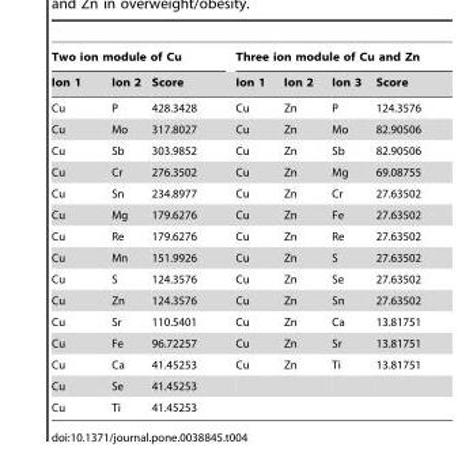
<table><thead><tr><td colspan="3">Two ion module of Cu</td><td colspan="4">Three ion module of Cu and Zn</td></tr><tr><td>Ion 1</td><td>Ion 2</td><td>Score</td><td>Ion 1</td><td>Ion 2</td><td>Ion 3</td><td>Score</td></tr></thead><tbody><tr><td>Cu</td><td>P</td><td>428.3428</td><td>Cu</td><td>Zn</td><td>P</td><td>124.3576</td></tr><tr><td>Cu</td><td>Mo</td><td>317.8027</td><td>Cu</td><td>Zn</td><td>Mo</td><td>82.90506</td></tr><tr><td>Cu</td><td>Sb</td><td>303.9852</td><td>Cu</td><td>Zn</td><td>Sb</td><td>82.90506</td></tr><tr><td>Cu</td><td>Cr</td><td>276.3502</td><td>Cu</td><td>Zn</td><td>Mg</td><td>69.08755</td></tr><tr><td>Cu</td><td>Sn</td><td>234.8977</td><td>Cu</td><td>Zn</td><td>Cr</td><td>27.63502</td></tr><tr><td>Cu</td><td>Mg</td><td>179.6276</td><td>Cu</td><td>Zn</td><td>Fe</td><td>27.63502</td></tr><tr><td>Cu</td><td>Re</td><td>179.6276</td><td>Cu</td><td>Zn</td><td>Re</td><td>27.63502</td></tr><tr><td>Cu</td><td>Mn</td><td>151.9926</td><td>Cu</td><td>Zn</td><td>S</td><td>27.63502</td></tr><tr><td>Cu</td><td>S</td><td>124.3576</td><td>Cu</td><td>Zn</td><td>Se</td><td>27.63502</td></tr><tr><td>Cu</td><td>Zn</td><td>124.3576</td><td>Cu</td><td>Zn</td><td>Sn</td><td>27.63502</td></tr><tr><td>Cu</td><td>Sr</td><td>110.5401</td><td>Cu</td><td>Zn</td><td>Ca</td><td>13.81751</td></tr><tr><td>Cu</td><td>Fe</td><td>96.72257</td><td>Cu</td><td>Zn</td><td>Sr</td><td>13.81751</td></tr><tr><td>Cu</td><td>Ca</td><td>41.45253</td><td>Cu</td><td>Zn</td><td>Ti</td><td>13.81751</td></tr><tr><td>Cu</td><td>Se</td><td>41.45253</td><td></td><td></td><td></td><td></td></tr><tr><td>Cu</td><td>Ti</td><td>41.45253</td><td></td><td></td><td></td><td></td></tr></tbody></table>